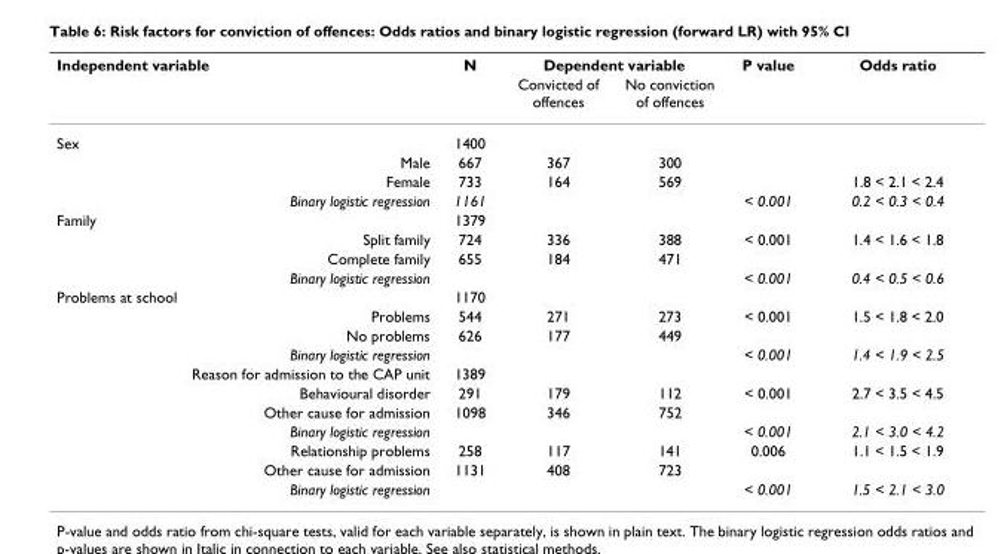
<table><thead><tr><td rowspan="2">Independent variable</td><td rowspan="2">N</td><td colspan="2">Dependent variable</td><td rowspan="2">P value</td><td rowspan="2">Odds ratio</td></tr><tr><td>Convicted of offences</td><td>No conviction of offences</td></tr></thead><tbody><tr><td>Sex</td><td>1400</td><td></td><td></td><td></td><td></td></tr><tr><td>Male</td><td>667</td><td>367</td><td>300</td><td></td><td></td></tr><tr><td>Female</td><td>733</td><td>164</td><td>569</td><td></td><td>1.8 &lt; 2.1 &lt; 2.4</td></tr><tr><td>Binary logistic regression</td><td>1161</td><td></td><td></td><td>&lt; 0.001</td><td>0.2 &lt; 0.3 &lt; 0.4</td></tr><tr><td>Family</td><td>1379</td><td></td><td></td><td></td><td></td></tr><tr><td>Split family</td><td>724</td><td>336</td><td>388</td><td>&lt; 0.001</td><td>1.4 &lt; 1.6 &lt; 1.8</td></tr><tr><td>Complete family</td><td>655</td><td>184</td><td>471</td><td></td><td></td></tr><tr><td>Binary logistic regression</td><td></td><td></td><td></td><td>&lt; 0.001</td><td>0.4 &lt; 0.5 &lt; 0.6</td></tr><tr><td>Problems at school</td><td>1170</td><td></td><td></td><td></td><td></td></tr><tr><td>Problems</td><td>544</td><td>271</td><td>273</td><td>&lt; 0.001</td><td>1.5 &lt; 1.8 &lt; 2.0</td></tr><tr><td>No problems</td><td>626</td><td>177</td><td>449</td><td></td><td></td></tr><tr><td>Binary logistic regression</td><td></td><td></td><td></td><td>&lt; 0.001</td><td>1.4 &lt; 1.9 &lt; 2.5</td></tr><tr><td>Reason for admission to the CAP unit</td><td>1389</td><td></td><td></td><td></td><td></td></tr><tr><td>Behavioural disorder</td><td>291</td><td>179</td><td>112</td><td>&lt; 0.001</td><td>2.7 &lt; 3.5 &lt; 4.5</td></tr><tr><td>Other cause for admission</td><td>1098</td><td>346</td><td>752</td><td></td><td></td></tr><tr><td>Binary logistic regression</td><td></td><td></td><td></td><td>&lt; 0.001</td><td>2.1 &lt; 3.0 &lt; 4.2</td></tr><tr><td>Relationship problems</td><td>258</td><td>117</td><td>141</td><td>0.006</td><td>1.1 &lt; 1.5 &lt; 1.9</td></tr><tr><td>Other cause for admission</td><td>1131</td><td>408</td><td>723</td><td></td><td></td></tr><tr><td>Binary logistic regression</td><td></td><td></td><td></td><td>&lt; 0.001</td><td>1.5 &lt; 2.1 &lt; 3.0</td></tr></tbody></table>